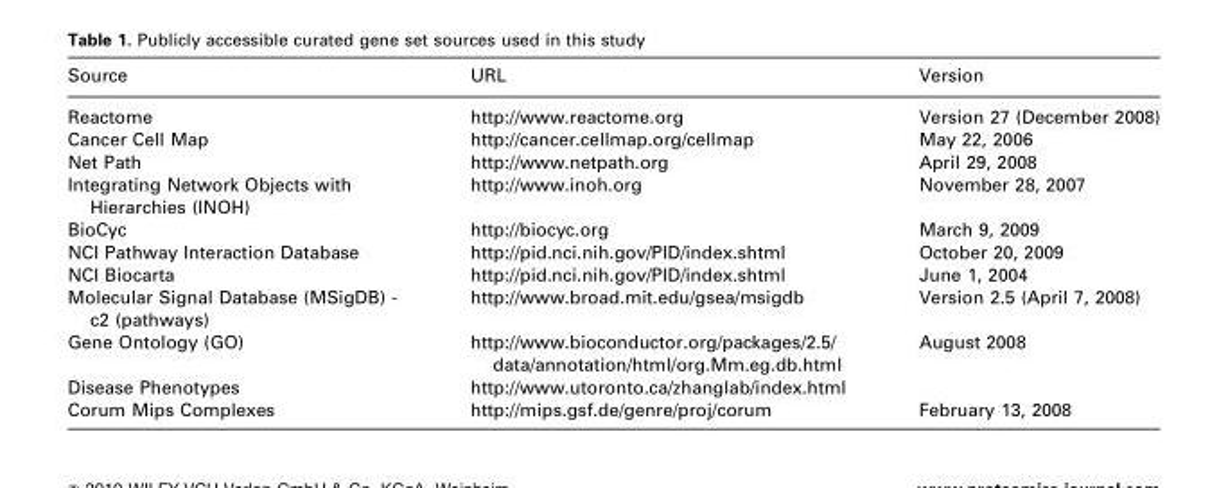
<table><thead><tr><td>Source</td><td>URL</td><td>Version</td></tr></thead><tbody><tr><td>Reactome</td><td>http://www.reactome.org</td><td>Version 27 (December 2008)</td></tr><tr><td>Cancer Cell Map</td><td>http://cancer.cellmap.org/cellmap</td><td>May 22, 2006</td></tr><tr><td>Net Path</td><td>http://www.netpath.org</td><td>April 29, 2008</td></tr><tr><td>Integrating Network Objects with Hierarchies (INOH)</td><td>http://www.inoh.org</td><td>November 28, 2007</td></tr><tr><td>BioCyc</td><td>http://biocyc.org</td><td>March 9, 2009</td></tr><tr><td>NCI Pathway Interaction Database</td><td>http://pid.nci.nih.gov/PID/index.shtml</td><td>October 20, 2009</td></tr><tr><td>NCI Biocarta</td><td>http://pid.nci.nih.gov/PID/index.shtml</td><td>June 1, 2004</td></tr><tr><td>Molecular Signal Database (MSigDB) - c2 (pathways)</td><td>http://www.broad.mit.edu/gsea/msigdb</td><td>Version 2.5 (April 7, 2008)</td></tr><tr><td>Gene Ontology (GO)</td><td>http://www.bioconductor.org/packages/2.5/ data/annotation/html/org.Mm.eg.db.html</td><td>August 2008</td></tr><tr><td>Disease Phenotypes</td><td>http://www.utoronto.ca/zhanglab/index.html</td><td></td></tr><tr><td>Corum Mips Complexes</td><td>http://mips.gsf.de/genre/proj/corum</td><td>February 13, 2008</td></tr></tbody></table>